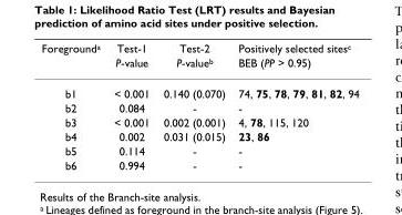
<table><thead><tr><td rowspan="2">Foreground<sup>a</sup></td><td rowspan="2">Test-1 P-value</td><td rowspan="2">Test-2 P-value<sup>b</sup></td><td rowspan="2">Positively selected sites<sup>c</sup> BEB (PP &gt; 0.95)</td></tr><tr></tr></thead><tbody><tr><td>b1</td><td>&lt; 0.001</td><td>0.140 (0.070)</td><td>74, 75, 78, 79, 81, 82, 94</td></tr><tr><td>b2</td><td>0.084</td><td>-</td><td>-</td></tr><tr><td>b3</td><td>&lt; 0.001</td><td>0.002 (0.001)</td><td>4, 78, 115, 120</td></tr><tr><td>b4</td><td>0.002</td><td>0.031 (0.015)</td><td>23, 86</td></tr><tr><td>b5</td><td>0.114</td><td>-</td><td>-</td></tr><tr><td>b6</td><td>0.994</td><td>-</td><td>-</td></tr></tbody></table>